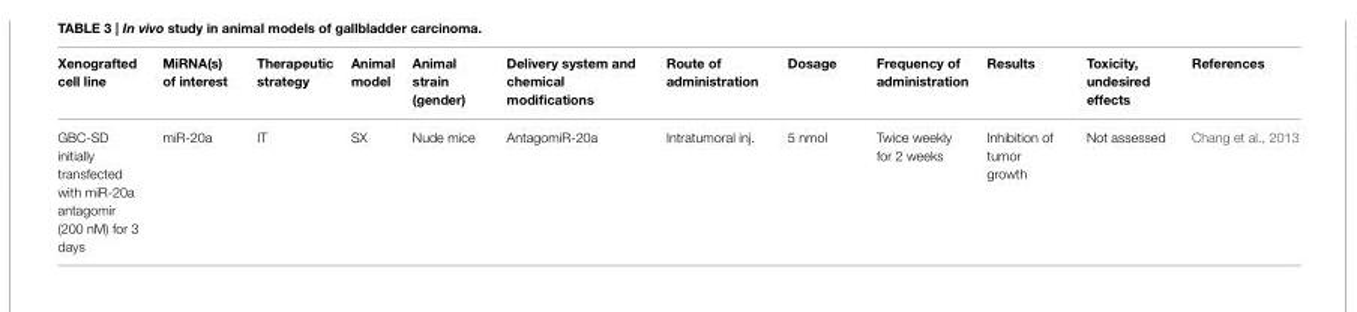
<table><thead><tr><td>Xenografted cell line</td><td>MiRNA(s) of interest</td><td>Therapeutic strategy</td><td>Animal model</td><td>Animal strain (gender)</td><td>Delivery system and chemical modifications</td><td>Route of administration</td><td>Dosage</td><td>Frequency of administration</td><td>Results</td><td>Toxicity, undesired effects</td><td>References</td></tr></thead><tbody><tr><td>GBC-SD initially transfected with miR-20a antagomir (200 nM) for 3 days</td><td>miR-20a</td><td>IT</td><td>SX</td><td>Nude mice</td><td>AntagomiR-20a</td><td>Intratumoral inj.</td><td>5 nmol</td><td>Twice weekly for 2 weeks</td><td>Inhibition of tumor growth</td><td>Not assessed</td><td>Chang et al., 2013</td></tr></tbody></table>